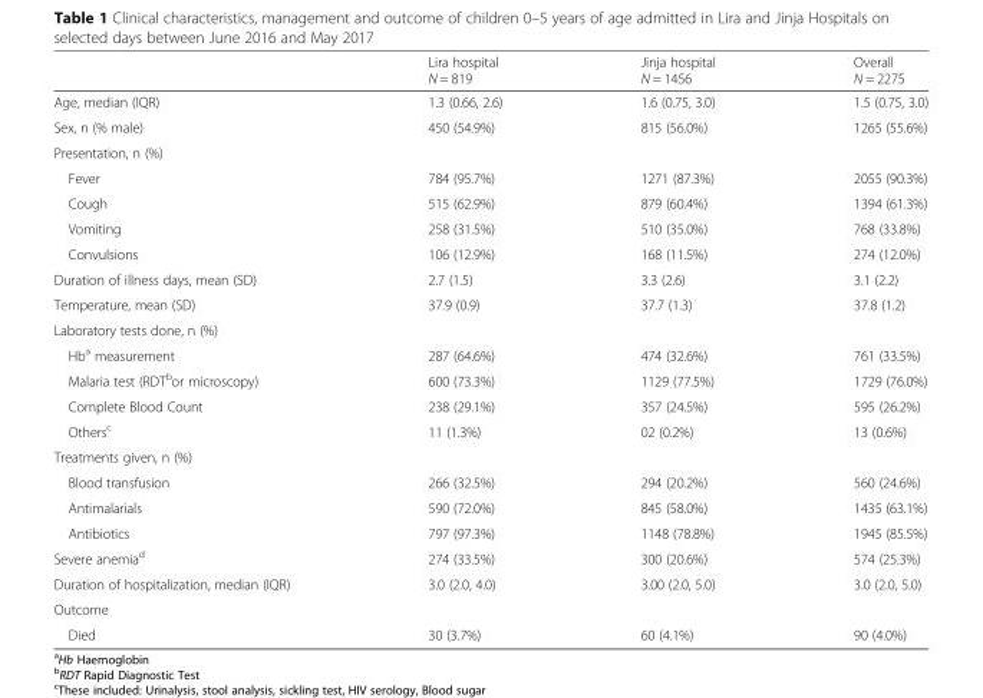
<table><thead><tr><td></td><td>Lira hospital N = 819</td><td>Jinja hospital N = 1456</td><td>Overall N = 2275</td></tr></thead><tbody><tr><td>Age, median (IQR)</td><td>1.3 (0.66, 2.6)</td><td>1.6 (0.75, 3.0)</td><td>1.5 (0.75, 3.0)</td></tr><tr><td>Sex, n (% male)</td><td>450 (54.9%)</td><td>815 (56.0%)</td><td>1265 (55.6%)</td></tr><tr><td colspan="4">Presentation, n (%)</td></tr><tr><td>Fever</td><td>784 (95.7%)</td><td>1271 (87.3%)</td><td>2055 (90.3%)</td></tr><tr><td>Cough</td><td>515 (62.9%)</td><td>879 (60.4%)</td><td>1394 (61.3%)</td></tr><tr><td>Vomiting</td><td>258 (31.5%)</td><td>510 (35.0%)</td><td>768 (33.8%)</td></tr><tr><td>Convulsions</td><td>106 (12.9%)</td><td>168 (11.5%)</td><td>274 (12.0%)</td></tr><tr><td>Duration of illness days, mean (SD)</td><td>2.7 (1.5)</td><td>3.3 (2.6)</td><td>3.1 (2.2)</td></tr><tr><td>Temperature, mean (SD)</td><td>37.9 (0.9)</td><td>37.7 (1.3)</td><td>37.8 (1.2)</td></tr><tr><td colspan="4">Laboratory tests done, n (%)</td></tr><tr><td>Hb<sup>a</sup> measurement</td><td>287 (64.6%)</td><td>474 (32.6%)</td><td>761 (33.5%)</td></tr><tr><td>Malaria test (RDT<sup>b</sup>or microscopy)</td><td>600 (73.3%)</td><td>1129 (77.5%)</td><td>1729 (76.0%)</td></tr><tr><td>Complete Blood Count</td><td>238 (29.1%)</td><td>357 (24.5%)</td><td>595 (26.2%)</td></tr><tr><td>Others<sup>c</sup></td><td>11 (1.3%)</td><td>02 (0.2%)</td><td>13 (0.6%)</td></tr><tr><td colspan="4">Treatments given, n (%)</td></tr><tr><td>Blood transfusion</td><td>266 (32.5%)</td><td>294 (20.2%)</td><td>560 (24.6%)</td></tr><tr><td>Antimalarials</td><td>590 (72.0%)</td><td>845 (58.0%)</td><td>1435 (63.1%)</td></tr><tr><td>Antibiotics</td><td>797 (97.3%)</td><td>1148 (78.8%)</td><td>1945 (85.5%)</td></tr><tr><td>Severe anemia<sup>d</sup></td><td>274 (33.5%)</td><td>300 (20.6%)</td><td>574 (25.3%)</td></tr><tr><td>Duration of hospitalization, median (IQR)</td><td>3.0 (2.0, 4.0)</td><td>3.00 (2.0, 5.0)</td><td>3.0 (2.0, 5.0)</td></tr><tr><td colspan="4">Outcome</td></tr><tr><td>Died</td><td>30 (3.7%)</td><td>60 (4.1%)</td><td>90 (4.0%)</td></tr></tbody></table>